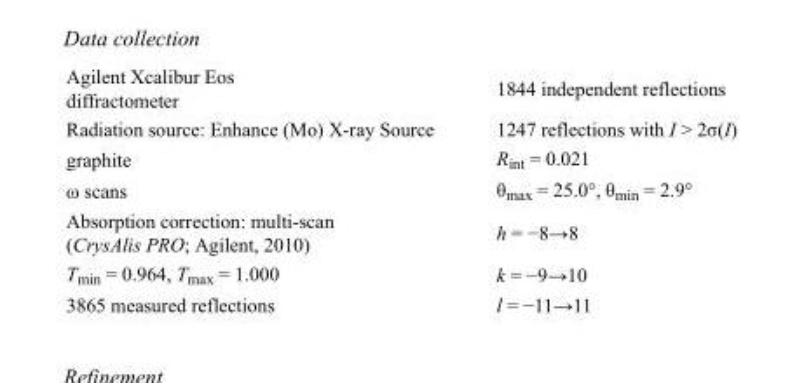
<table><tbody><tr><td>Agilent Xcalibur Eos diffractometer</td><td>1844 independent reflections</td></tr><tr><td>Radiation source: Enhance (Mo) X-ray Source</td><td>1247 reflections with I &gt; 2σ(I)</td></tr><tr><td>graphite</td><td>R<sub>int</sub> = 0.021</td></tr><tr><td>ω scans</td><td>θ<sub>max</sub> = 25.0°, θ<sub>min</sub> = 2.9°</td></tr><tr><td>Absorption correction: multi-scan (CrysAlis PRO; Agilent, 2010)</td><td>h = −8→8</td></tr><tr><td>T<sub>min</sub> = 0.964, T<sub>max</sub> = 1.000</td><td>k = −9→10</td></tr><tr><td>3865 measured reflections</td><td>l = −11→11</td></tr></tbody></table>